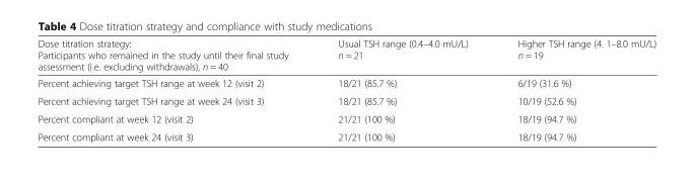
<table><thead><tr><td>Dose titration strategy: Participants who remained in the study until their final study assessment (i.e. excluding withdrawals), n = 40</td><td>Usual TSH range (0.4–4.0 mU/L) n = 21</td><td>Higher TSH range (4. 1–8.0 mU/L) n = 19</td></tr></thead><tbody><tr><td>Percent achieving target TSH range at week 12 (visit 2)</td><td>18/21 (85.7 %)</td><td>6/19 (31.6 %)</td></tr><tr><td>Percent achieving target TSH range at week 24 (visit 3)</td><td>18/21 (85.7 %)</td><td>10/19 (52.6 %)</td></tr><tr><td>Percent compliant at week 12 (visit 2)</td><td>21/21 (100 %)</td><td>18/19 (94.7 %)</td></tr><tr><td>Percent compliant at week 24 (visit 3)</td><td>21/21 (100 %)</td><td>18/19 (94.7 %)</td></tr></tbody></table>